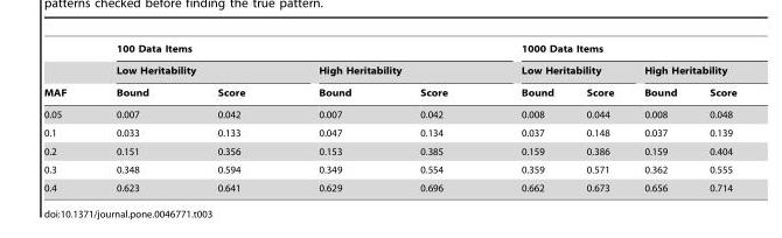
<table><thead><tr><td rowspan="3">MAF</td><td colspan="4">100 Data Items</td><td colspan="4">1000 Data Items</td></tr><tr><td colspan="2">Low Heritability</td><td colspan="2">High Heritability</td><td colspan="2">Low Heritability</td><td colspan="2">High Heritability</td></tr><tr><td>Bound</td><td>Score</td><td>Bound</td><td>Score</td><td>Bound</td><td>Score</td><td>Bound</td><td>Score</td></tr></thead><tbody><tr><td>0.05</td><td>0.007</td><td>0.042</td><td>0.007</td><td>0.042</td><td>0.008</td><td>0.044</td><td>0.008</td><td>0.048</td></tr><tr><td>0.1</td><td>0.033</td><td>0.133</td><td>0.047</td><td>0.134</td><td>0.037</td><td>0.148</td><td>0.037</td><td>0.139</td></tr><tr><td>0.2</td><td>0.151</td><td>0.356</td><td>0.153</td><td>0.385</td><td>0.159</td><td>0.386</td><td>0.159</td><td>0.404</td></tr><tr><td>0.3</td><td>0.348</td><td>0.594</td><td>0.349</td><td>0.554</td><td>0.359</td><td>0.571</td><td>0.362</td><td>0.555</td></tr><tr><td>0.4</td><td>0.623</td><td>0.641</td><td>0.629</td><td>0.696</td><td>0.662</td><td>0.673</td><td>0.656</td><td>0.714</td></tr></tbody></table>